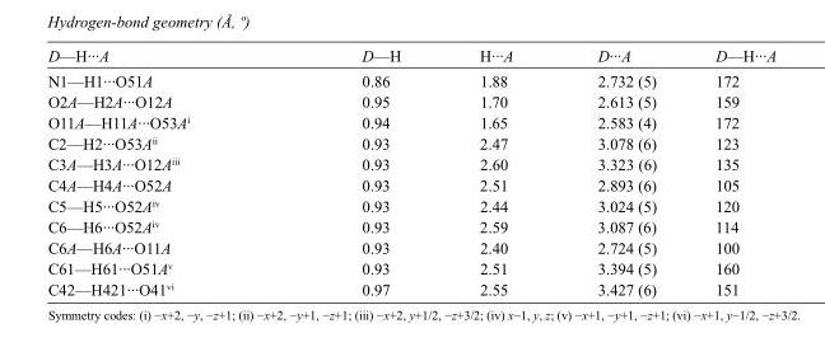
<table><tbody><tr><td>D—H···A</td><td>D—H</td><td>H···A</td><td>D···A</td><td>D—H···A</td></tr><tr><td>N1—H1···O51A</td><td>0.86</td><td>1.88</td><td>2.732 (5)</td><td>172</td></tr><tr><td>O2A—H2A···O12A</td><td>0.95</td><td>1.70</td><td>2.613 (5)</td><td>159</td></tr><tr><td>O11A—H11A···O53A<sup>i</sup></td><td>0.94</td><td>1.65</td><td>2.583 (4)</td><td>172</td></tr><tr><td>C2—H2···O53A<sup>ii</sup></td><td>0.93</td><td>2.47</td><td>3.078 (6)</td><td>123</td></tr><tr><td>C3A—H3A···O12A<sup>iii</sup></td><td>0.93</td><td>2.60</td><td>3.323 (6)</td><td>135</td></tr><tr><td>C4A—H4A···O52A</td><td>0.93</td><td>2.51</td><td>2.893 (6)</td><td>105</td></tr><tr><td>C5—H5···O52A<sup>iv</sup></td><td>0.93</td><td>2.44</td><td>3.024 (5)</td><td>120</td></tr><tr><td>C6—H6···O52A<sup>iv</sup></td><td>0.93</td><td>2.59</td><td>3.087 (6)</td><td>114</td></tr><tr><td>C6A—H6A···O11A</td><td>0.93</td><td>2.40</td><td>2.724 (5)</td><td>100</td></tr><tr><td>C61—H61···O51A<sup>v</sup></td><td>0.93</td><td>2.51</td><td>3.394 (5)</td><td>160</td></tr><tr><td>C42—H421···O41<sup>vi</sup></td><td>0.97</td><td>2.55</td><td>3.427 (6)</td><td>151</td></tr></tbody></table>